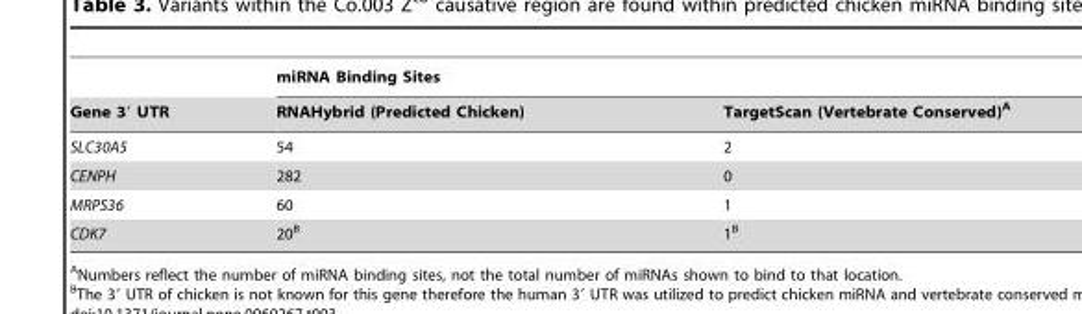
<table><thead><tr><td rowspan="2">Gene 3′ UTR</td><td colspan="2">miRNA Binding Sites</td></tr><tr><td>RNAHybrid (Predicted Chicken)</td><td>TargetScan (Vertebrate Conserved)<sup>A</sup></td></tr></thead><tbody><tr><td>SLC30A5</td><td>54</td><td>2</td></tr><tr><td>CENPH</td><td>282</td><td>0</td></tr><tr><td>MRPS36</td><td>60</td><td>1</td></tr><tr><td>CDK7</td><td>20<sup>B</sup></td><td>1<sup>B</sup></td></tr></tbody></table>